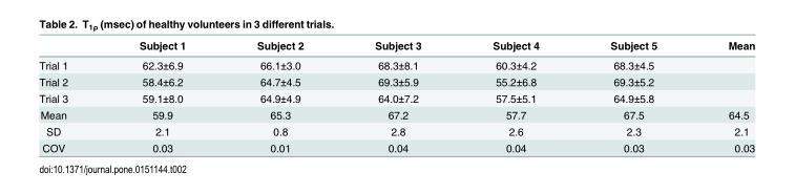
<table><thead><tr><td></td><td>Subject 1</td><td>Subject 2</td><td>Subject 3</td><td>Subject 4</td><td>Subject 5</td><td>Mean</td></tr></thead><tbody><tr><td>Trial 1</td><td>62.3±6.9</td><td>66.1±3.0</td><td>68.3±8.1</td><td>60.3±4.2</td><td>68.3±4.5</td><td></td></tr><tr><td>Trial 2</td><td>58.4±6.2</td><td>64.7±4.5</td><td>69.3±5.9</td><td>55.2±6.8</td><td>69.3±5.2</td><td></td></tr><tr><td>Trial 3</td><td>59.1±8.0</td><td>64.9±4.9</td><td>64.0±7.2</td><td>57.5±5.1</td><td>64.9±5.8</td><td></td></tr><tr><td>Mean</td><td>59.9</td><td>65.3</td><td>67.2</td><td>57.7</td><td>67.5</td><td>64.5</td></tr><tr><td>SD</td><td>2.1</td><td>0.8</td><td>2.8</td><td>2.6</td><td>2.3</td><td>2.1</td></tr><tr><td>COV</td><td>0.03</td><td>0.01</td><td>0.04</td><td>0.04</td><td>0.03</td><td>0.03</td></tr></tbody></table>